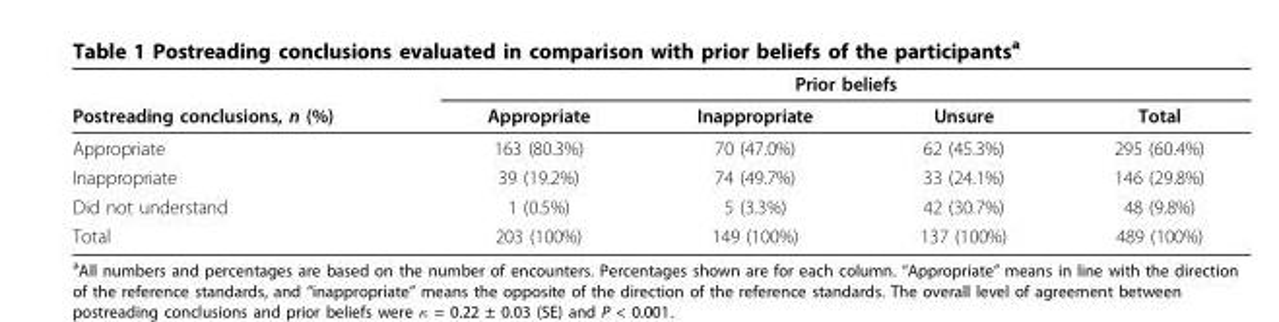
<table><thead><tr><td rowspan="2">Postreading conclusions, n (%)</td><td colspan="4">Prior beliefs</td></tr><tr><td>Appropriate</td><td>Inappropriate</td><td>Unsure</td><td>Total</td></tr></thead><tbody><tr><td>Appropriate</td><td>163 (80.3%)</td><td>70 (47.0%)</td><td>62 (45.3%)</td><td>295 (60.4%)</td></tr><tr><td>Inappropriate</td><td>39 (19.2%)</td><td>74 (49.7%)</td><td>33 (24.1%)</td><td>146 (29.8%)</td></tr><tr><td>Did not understand</td><td>1 (0.5%)</td><td>5 (3.3%)</td><td>42 (30.7%)</td><td>48 (9.8%)</td></tr><tr><td>Total</td><td>203 (100%)</td><td>149 (100%)</td><td>137 (100%)</td><td>489 (100%)</td></tr></tbody></table>